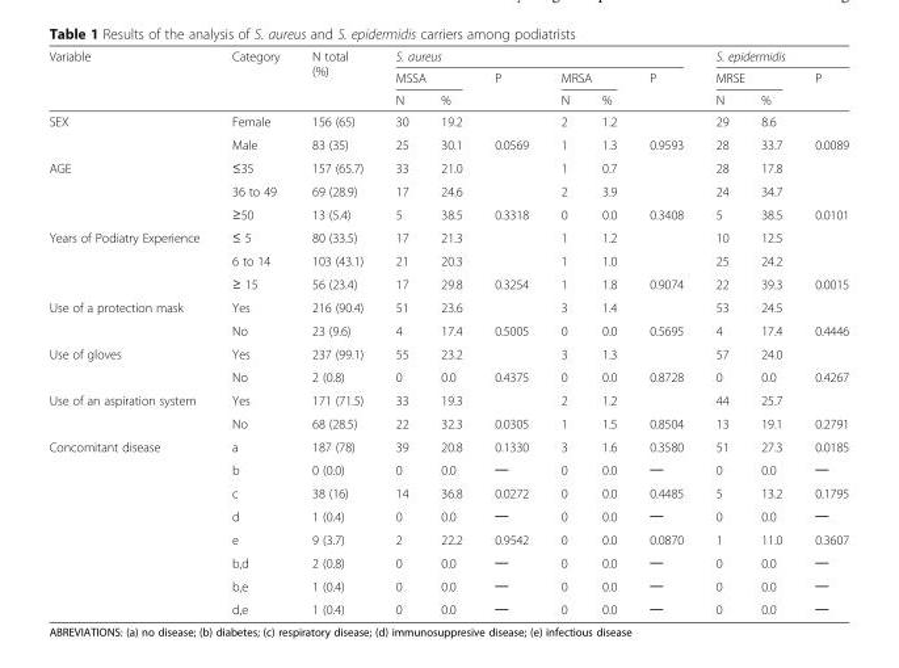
<table><thead><tr><td rowspan="3">Variable</td><td rowspan="3">Category</td><td rowspan="3">N total (%)</td><td colspan="6">S. aureus</td><td colspan="3">S. epidermidis</td></tr><tr><td colspan="2">MSSA</td><td rowspan="2">P</td><td colspan="2">MRSA</td><td rowspan="2">P</td><td colspan="2">MRSE</td><td rowspan="2">P</td></tr><tr><td>N</td><td>%</td><td>N</td><td>%</td><td>N</td><td>%</td></tr></thead><tbody><tr><td rowspan="2">SEX</td><td>Female</td><td>156 (65)</td><td>30</td><td>19.2</td><td></td><td>2</td><td>1.2</td><td></td><td>29</td><td>8.6</td><td></td></tr><tr><td>Male</td><td>83 (35)</td><td>25</td><td>30.1</td><td>0.0569</td><td>1</td><td>1.3</td><td>0.9593</td><td>28</td><td>33.7</td><td>0.0089</td></tr><tr><td rowspan="3">AGE</td><td>≤35</td><td>157 (65.7)</td><td>33</td><td>21.0</td><td></td><td>1</td><td>0.7</td><td></td><td>28</td><td>17.8</td><td></td></tr><tr><td>36 to 49</td><td>69 (28.9)</td><td>17</td><td>24.6</td><td></td><td>2</td><td>3.9</td><td></td><td>24</td><td>34.7</td><td></td></tr><tr><td>≥50</td><td>13 (5.4)</td><td>5</td><td>38.5</td><td>0.3318</td><td>0</td><td>0.0</td><td>0.3408</td><td>5</td><td>38.5</td><td>0.0101</td></tr><tr><td rowspan="3">Years of Podiatry Experience</td><td>≤ 5</td><td>80 (33.5)</td><td>17</td><td>21.3</td><td></td><td>1</td><td>1.2</td><td></td><td>10</td><td>12.5</td><td></td></tr><tr><td>6 to 14</td><td>103 (43.1)</td><td>21</td><td>20.3</td><td></td><td>1</td><td>1.0</td><td></td><td>25</td><td>24.2</td><td></td></tr><tr><td>≥ 15</td><td>56 (23.4)</td><td>17</td><td>29.8</td><td>0.3254</td><td>1</td><td>1.8</td><td>0.9074</td><td>22</td><td>39.3</td><td>0.0015</td></tr><tr><td rowspan="2">Use of a protection mask</td><td>Yes</td><td>216 (90.4)</td><td>51</td><td>23.6</td><td></td><td>3</td><td>1.4</td><td></td><td>53</td><td>24.5</td><td></td></tr><tr><td>No</td><td>23 (9.6)</td><td>4</td><td>17.4</td><td>0.5005</td><td>0</td><td>0.0</td><td>0.5695</td><td>4</td><td>17.4</td><td>0.4446</td></tr><tr><td rowspan="2">Use of gloves</td><td>Yes</td><td>237 (99.1)</td><td>55</td><td>23.2</td><td></td><td>3</td><td>1.3</td><td></td><td>57</td><td>24.0</td><td></td></tr><tr><td>No</td><td>2 (0.8)</td><td>0</td><td>0.0</td><td>0.4375</td><td>0</td><td>0.0</td><td>0.8728</td><td>0</td><td>0.0</td><td>0.4267</td></tr><tr><td rowspan="2">Use of an aspiration system</td><td>Yes</td><td>171 (71.5)</td><td>33</td><td>19.3</td><td></td><td>2</td><td>1.2</td><td></td><td>44</td><td>25.7</td><td></td></tr><tr><td>No</td><td>68 (28.5)</td><td>22</td><td>32.3</td><td>0.0305</td><td>1</td><td>1.5</td><td>0.8504</td><td>13</td><td>19.1</td><td>0.2791</td></tr><tr><td rowspan="8">Concomitant disease</td><td>a</td><td>187 (78)</td><td>39</td><td>20.8</td><td>0.1330</td><td>3</td><td>1.6</td><td>0.3580</td><td>51</td><td>27.3</td><td>0.0185</td></tr><tr><td>b</td><td>0 (0.0)</td><td>0</td><td>0.0</td><td>─</td><td>0</td><td>0.0</td><td>─</td><td>0</td><td>0.0</td><td>─</td></tr><tr><td>c</td><td>38 (16)</td><td>14</td><td>36.8</td><td>0.0272</td><td>0</td><td>0.0</td><td>0.4485</td><td>5</td><td>13.2</td><td>0.1795</td></tr><tr><td>d</td><td>1 (0.4)</td><td>0</td><td>0.0</td><td>─</td><td>0</td><td>0.0</td><td>─</td><td>0</td><td>0.0</td><td>─</td></tr><tr><td>e</td><td>9 (3.7)</td><td>2</td><td>22.2</td><td>0.9542</td><td>0</td><td>0.0</td><td>0.0870</td><td>1</td><td>11.0</td><td>0.3607</td></tr><tr><td>b,d</td><td>2 (0.8)</td><td>0</td><td>0.0</td><td>─</td><td>0</td><td>0.0</td><td>─</td><td>0</td><td>0.0</td><td>─</td></tr><tr><td>b,e</td><td>1 (0.4)</td><td>0</td><td>0.0</td><td>─</td><td>0</td><td>0.0</td><td>─</td><td>0</td><td>0.0</td><td>─</td></tr><tr><td>d,e</td><td>1 (0.4)</td><td>0</td><td>0.0</td><td>─</td><td>0</td><td>0.0</td><td>─</td><td>0</td><td>0.0</td><td>─</td></tr></tbody></table>